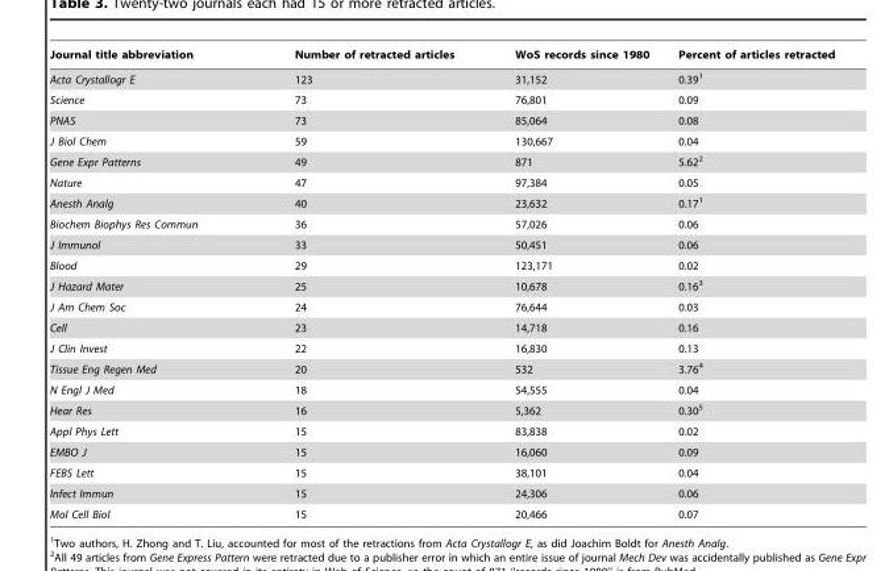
<table><thead><tr><td>Journal title abbreviation</td><td>Number of retracted articles</td><td>WoS records since 1980</td><td>Percent of articles retracted</td></tr></thead><tbody><tr><td>Acta Crystallogr E</td><td>123</td><td>31,152</td><td>0.39<sup>1</sup></td></tr><tr><td>Science</td><td>73</td><td>76,801</td><td>0.09</td></tr><tr><td>PNAS</td><td>73</td><td>85,064</td><td>0.08</td></tr><tr><td>J Biol Chem</td><td>59</td><td>130,667</td><td>0.04</td></tr><tr><td>Gene Expr Patterns</td><td>49</td><td>871</td><td>5.62<sup>2</sup></td></tr><tr><td>Nature</td><td>47</td><td>97,384</td><td>0.05</td></tr><tr><td>Anesth Analg</td><td>40</td><td>23,632</td><td>0.17<sup>1</sup></td></tr><tr><td>Biochem Biophys Res Commun</td><td>36</td><td>57,026</td><td>0.06</td></tr><tr><td>J Immunol</td><td>33</td><td>50,451</td><td>0.06</td></tr><tr><td>Blood</td><td>29</td><td>123,171</td><td>0.02</td></tr><tr><td>J Hazard Mater</td><td>25</td><td>10,678</td><td>0.16<sup>3</sup></td></tr><tr><td>J Am Chem Soc</td><td>24</td><td>76,644</td><td>0.03</td></tr><tr><td>Cell</td><td>23</td><td>14,718</td><td>0.16</td></tr><tr><td>J Clin Invest</td><td>22</td><td>16,830</td><td>0.13</td></tr><tr><td>Tissue Eng Regen Med</td><td>20</td><td>532</td><td>3.76<sup>4</sup></td></tr><tr><td>N Engl J Med</td><td>18</td><td>54,555</td><td>0.04</td></tr><tr><td>Hear Res</td><td>16</td><td>5,362</td><td>0.30<sup>5</sup></td></tr><tr><td>Appl Phys Lett</td><td>15</td><td>83,838</td><td>0.02</td></tr><tr><td>EMBO J</td><td>15</td><td>16,060</td><td>0.09</td></tr><tr><td>FEBS Lett</td><td>15</td><td>38,101</td><td>0.04</td></tr><tr><td>Infect Immun</td><td>15</td><td>24,306</td><td>0.06</td></tr><tr><td>Mol Cell Biol</td><td>15</td><td>20,466</td><td>0.07</td></tr></tbody></table>